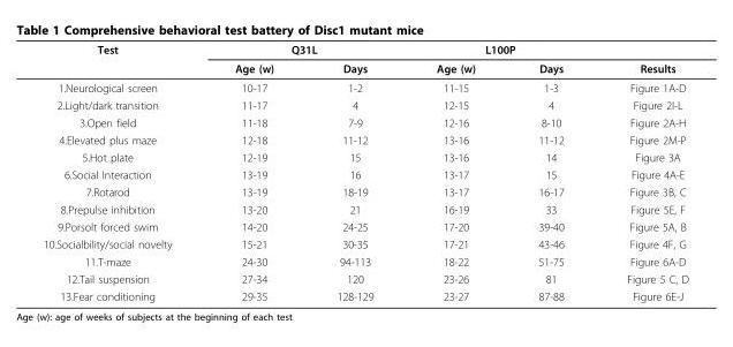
<table><thead><tr><td rowspan="2">Test</td><td colspan="2">Q31L</td><td colspan="2">L100P</td><td rowspan="2">Results</td></tr><tr><td>Age (w)</td><td>Days</td><td>Age (w)</td><td>Days</td></tr></thead><tbody><tr><td>1.Neurological screen</td><td>10-17</td><td>1-2</td><td>11-15</td><td>1-3</td><td>Figure 1A-D</td></tr><tr><td>2.Light/dark transition</td><td>11-17</td><td>4</td><td>12-15</td><td>4</td><td>Figure 2I-L</td></tr><tr><td>3.Open field</td><td>11-18</td><td>7-9</td><td>12-16</td><td>8-10</td><td>Figure 2A-H</td></tr><tr><td>4.Elevated plus maze</td><td>12-18</td><td>11-12</td><td>13-16</td><td>11-12</td><td>Figure 2M-P</td></tr><tr><td>5.Hot plate</td><td>12-19</td><td>15</td><td>13-16</td><td>14</td><td>Figure 3A</td></tr><tr><td>6.Social Interaction</td><td>13-19</td><td>16</td><td>13-17</td><td>15</td><td>Figure 4A-E</td></tr><tr><td>7.Rotarod</td><td>13-19</td><td>18-19</td><td>13-17</td><td>16-17</td><td>Figure 3B, C</td></tr><tr><td>8.Prepulse inhibition</td><td>13-20</td><td>21</td><td>16-19</td><td>33</td><td>Figure 5E, F</td></tr><tr><td>9.Porsolt forced swim</td><td>14-20</td><td>24-25</td><td>17-20</td><td>39-40</td><td>Figure 5A, B</td></tr><tr><td>10.Socialbility/social novelty</td><td>15-21</td><td>30-35</td><td>17-21</td><td>43-46</td><td>Figure 4F, G</td></tr><tr><td>11.T-maze</td><td>24-30</td><td>94-113</td><td>18-22</td><td>51-75</td><td>Figure 6A-D</td></tr><tr><td>12.Tail suspension</td><td>27-34</td><td>120</td><td>23-26</td><td>81</td><td>Figure 5 C, D</td></tr><tr><td>13.Fear conditioning</td><td>29-35</td><td>128-129</td><td>23-27</td><td>87-88</td><td>Figure 6E-J</td></tr></tbody></table>